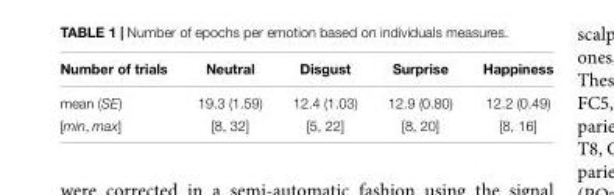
<table><thead><tr><td>Number of trials</td><td>Neutral</td><td>Disgust</td><td>Surprise</td><td>Happiness</td></tr></thead><tbody><tr><td>mean (SE)</td><td>19.3 (1.59)</td><td>12.4 (1.03)</td><td>12.9 (0.80)</td><td>12.2 (0.49)</td></tr><tr><td>[min, max]</td><td>[8, 32]</td><td>[5, 22]</td><td>[8, 20]</td><td>[8, 16]</td></tr></tbody></table>